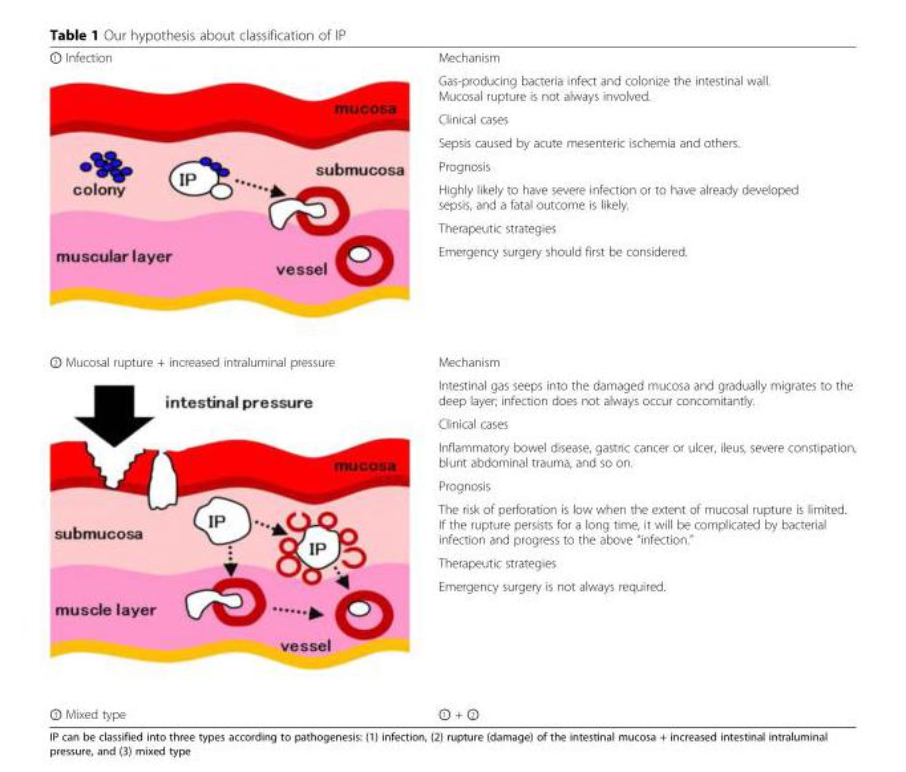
<table><tbody><tr><td rowspan="8">① Infection</td><td>Mechanism</td></tr><tr><td>Gas-producing bacteria infect and colonize the intestinal wall. Mucosal rupture is not always involved.</td></tr><tr><td>Clinical cases</td></tr><tr><td>Sepsis caused by acute mesenteric ischemia and others.</td></tr><tr><td>Prognosis</td></tr><tr><td>Highly likely to have severe infection or to have already developed sepsis, and a fatal outcome is likely.</td></tr><tr><td>Therapeutic strategies</td></tr><tr><td>Emergency surgery should first be considered.</td></tr><tr><td rowspan="8">② Mucosal rupture + increased intraluminal pressure</td><td>Mechanism</td></tr><tr><td>Intestinal gas seeps into the damaged mucosa and gradually migrates to the deep layer; infection does not always occur concomitantly.</td></tr><tr><td>Clinical cases</td></tr><tr><td>Inflammatory bowel disease, gastric cancer or ulcer, ileus, severe constipation, blunt abdominal trauma, and so on.</td></tr><tr><td>Prognosis</td></tr><tr><td>The risk of perforation is low when the extent of mucosal rupture is limited. If the rupture persists for a long time, it will be complicated by bacterial infection and progress to the above “infection.”</td></tr><tr><td>Therapeutic strategies</td></tr><tr><td>Emergency surgery is not always required.</td></tr><tr><td>③ Mixed type</td><td>① + ②</td></tr></tbody></table>